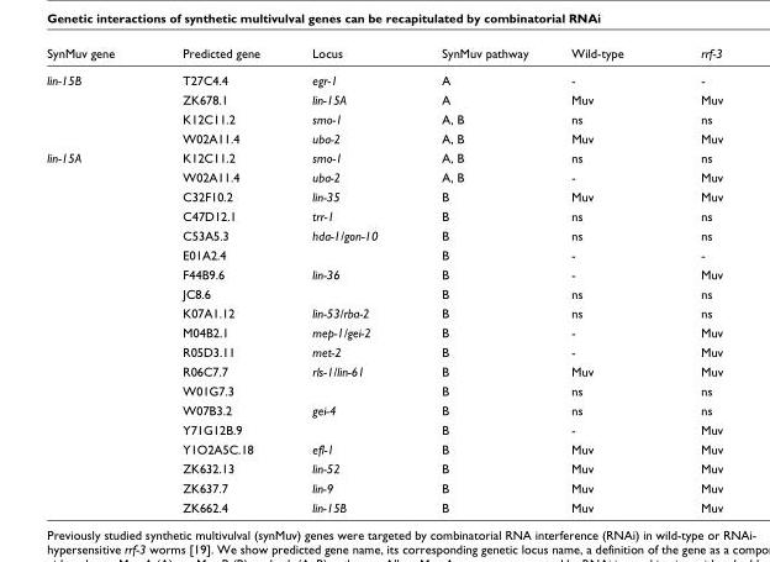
<table><thead><tr><td>SynMuv gene</td><td>Predicted gene</td><td>Locus</td><td>SynMuv pathway</td><td>Wild-type</td><td>rrf-3</td></tr></thead><tbody><tr><td rowspan="4">lin-15B</td><td>T27C4.4</td><td>egr-1</td><td>A</td><td>-</td><td>-</td></tr><tr><td>ZK678.1</td><td>lin-15A</td><td>A</td><td>Muv</td><td>Muv</td></tr><tr><td>K12C11.2</td><td>smo-1</td><td>A, B</td><td>ns</td><td>ns</td></tr><tr><td>W02A11.4</td><td>uba-2</td><td>A, B</td><td>Muv</td><td>Muv</td></tr><tr><td rowspan="19">lin-15A</td><td>K12C11.2</td><td>smo-1</td><td>A, B</td><td>ns</td><td>ns</td></tr><tr><td>W02A11.4</td><td>uba-2</td><td>A, B</td><td>-</td><td>Muv</td></tr><tr><td>C32F10.2</td><td>lin-35</td><td>B</td><td>Muv</td><td>Muv</td></tr><tr><td>C47D12.1</td><td>trr-1</td><td>B</td><td>ns</td><td>ns</td></tr><tr><td>C53A5.3</td><td>hda-1/gon-10</td><td>B</td><td>ns</td><td>ns</td></tr><tr><td>E01A2.4</td><td></td><td>B</td><td>-</td><td>-</td></tr><tr><td>F44B9.6</td><td>lin-36</td><td>B</td><td>-</td><td>Muv</td></tr><tr><td>JC8.6</td><td></td><td>B</td><td>ns</td><td>ns</td></tr><tr><td>K07A1.12</td><td>lin-53/rba-2</td><td>B</td><td>ns</td><td>ns</td></tr><tr><td>M04B2.1</td><td>mep-1/gei-2</td><td>B</td><td>-</td><td>Muv</td></tr><tr><td>R05D3.11</td><td>met-2</td><td>B</td><td>-</td><td>Muv</td></tr><tr><td>R06C7.7</td><td>rls-1/lin-61</td><td>B</td><td>Muv</td><td>Muv</td></tr><tr><td>W01G7.3</td><td></td><td>B</td><td>ns</td><td>ns</td></tr><tr><td>W07B3.2</td><td>gei-4</td><td>B</td><td>ns</td><td>ns</td></tr><tr><td>Y71G12B.9</td><td></td><td>B</td><td>-</td><td>Muv</td></tr><tr><td>Y1O2A5C.18</td><td>efl-1</td><td>B</td><td>Muv</td><td>Muv</td></tr><tr><td>ZK632.13</td><td>lin-52</td><td>B</td><td>Muv</td><td>Muv</td></tr><tr><td>ZK637.7</td><td>lin-9</td><td>B</td><td>Muv</td><td>Muv</td></tr><tr><td>ZK662.4</td><td>lin-15B</td><td>B</td><td>Muv</td><td>Muv</td></tr></tbody></table>